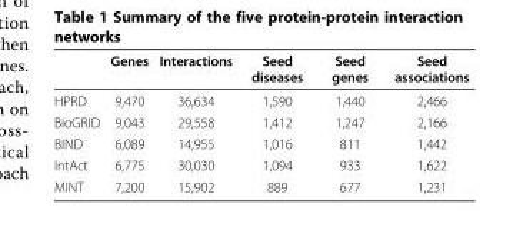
<table><thead><tr><td></td><td>Genes</td><td>Interactions</td><td>Seed diseases</td><td>Seed genes</td><td>Seed associations</td></tr></thead><tbody><tr><td>HPRD</td><td>9,470</td><td>36,634</td><td>1,590</td><td>1,440</td><td>2,466</td></tr><tr><td>BioGRID</td><td>9,043</td><td>29,558</td><td>1,412</td><td>1,247</td><td>2,166</td></tr><tr><td>BIND</td><td>6,089</td><td>14,955</td><td>1,016</td><td>811</td><td>1,442</td></tr><tr><td>IntAct</td><td>6,775</td><td>30,030</td><td>1,094</td><td>933</td><td>1,622</td></tr><tr><td>MINT</td><td>7,200</td><td>15,902</td><td>889</td><td>677</td><td>1,231</td></tr></tbody></table>